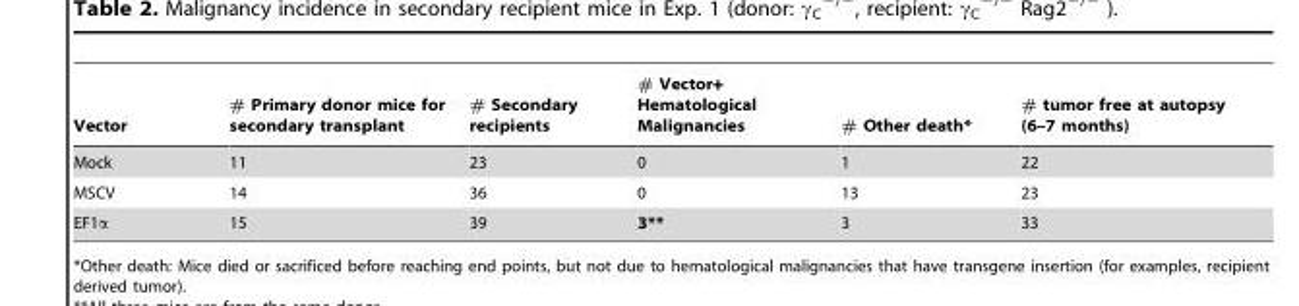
<table><thead><tr><td>Vector</td><td># Primary donor mice for secondary transplant</td><td># Secondary recipients</td><td># Vector+ Hematological Malignancies</td><td># Other death*</td><td># tumor free at autopsy (6–7 months)</td></tr></thead><tbody><tr><td>Mock</td><td>11</td><td>23</td><td>0</td><td>1</td><td>22</td></tr><tr><td>MSCV</td><td>14</td><td>36</td><td>0</td><td>13</td><td>23</td></tr><tr><td>EF1α</td><td>15</td><td>39</td><td>3**</td><td>3</td><td>33</td></tr></tbody></table>